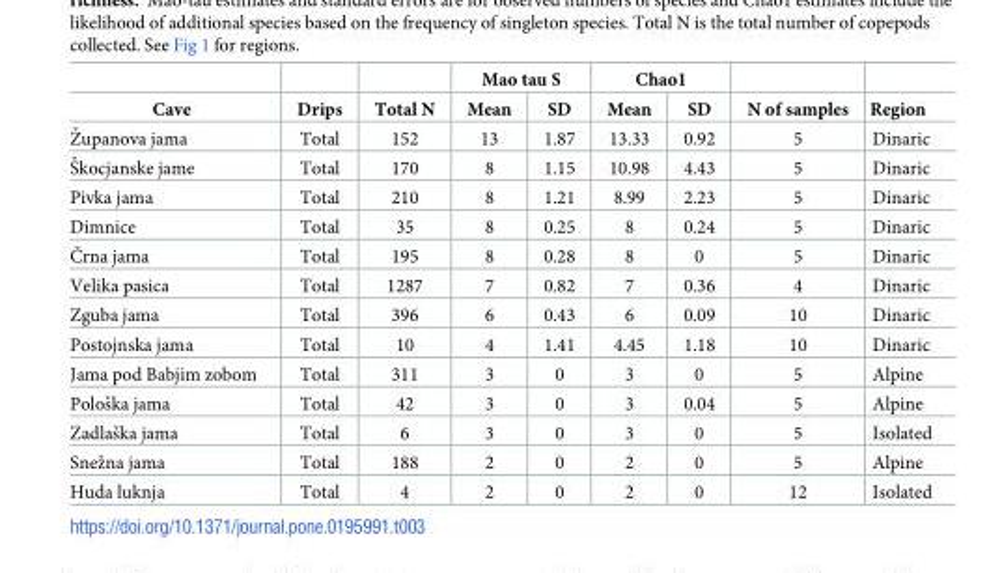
<table><thead><tr><td rowspan="2">Cave</td><td rowspan="2">Drips</td><td rowspan="2">Total N</td><td colspan="2">Mao tau S</td><td colspan="2">Chao1</td><td rowspan="2">N of samples</td><td rowspan="2">Region</td></tr><tr><td>Mean</td><td>SD</td><td>Mean</td><td>SD</td></tr></thead><tbody><tr><td>Zˇupanova jama</td><td>Total</td><td>152</td><td>13</td><td>1.87</td><td>13.33</td><td>0.92</td><td>5</td><td>Dinaric</td></tr><tr><td>Sˇkocjanske jame</td><td>Total</td><td>170</td><td>8</td><td>1.15</td><td>10.98</td><td>4.43</td><td>5</td><td>Dinaric</td></tr><tr><td>Pivka jama</td><td>Total</td><td>210</td><td>8</td><td>1.21</td><td>8.99</td><td>2.23</td><td>5</td><td>Dinaric</td></tr><tr><td>Dimnice</td><td>Total</td><td>35</td><td>8</td><td>0.25</td><td>8</td><td>0.24</td><td>5</td><td>Dinaric</td></tr><tr><td>Črna jama</td><td>Total</td><td>195</td><td>8</td><td>0.28</td><td>8</td><td>0</td><td>5</td><td>Dinaric</td></tr><tr><td>Velika pasica</td><td>Total</td><td>1287</td><td>7</td><td>0.82</td><td>7</td><td>0.36</td><td>4</td><td>Dinaric</td></tr><tr><td>Zguba jama</td><td>Total</td><td>396</td><td>6</td><td>0.43</td><td>6</td><td>0.09</td><td>10</td><td>Dinaric</td></tr><tr><td>Postojnska jama</td><td>Total</td><td>10</td><td>4</td><td>1.41</td><td>4.45</td><td>1.18</td><td>10</td><td>Dinaric</td></tr><tr><td>Jama pod Babjim zobom</td><td>Total</td><td>311</td><td>3</td><td>0</td><td>3</td><td>0</td><td>5</td><td>Alpine</td></tr><tr><td>Polosˇka jama</td><td>Total</td><td>42</td><td>3</td><td>0</td><td>3</td><td>0.04</td><td>5</td><td>Alpine</td></tr><tr><td>Zadlasˇka jama</td><td>Total</td><td>6</td><td>3</td><td>0</td><td>3</td><td>0</td><td>5</td><td>Isolated</td></tr><tr><td>Snezˇna jama</td><td>Total</td><td>188</td><td>2</td><td>0</td><td>2</td><td>0</td><td>5</td><td>Alpine</td></tr><tr><td>Huda luknja</td><td>Total</td><td>4</td><td>2</td><td>0</td><td>2</td><td>0</td><td>12</td><td>Isolated</td></tr></tbody></table>